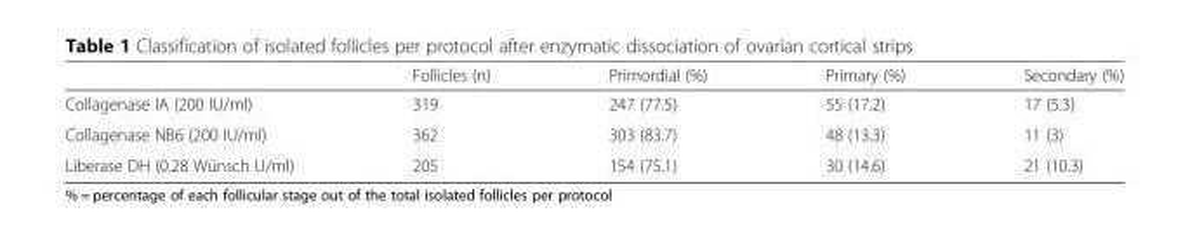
<table><thead><tr><td></td><td>Follicles (n)</td><td>Primordial (%)</td><td>Primary (%)</td><td>Secondary (%)</td></tr></thead><tbody><tr><td>Collagenase IA (200 IU/ml)</td><td>319</td><td>247 (77.5)</td><td>55 (17.2)</td><td>17 (5.3)</td></tr><tr><td>Collagenase NB6 (200 IU/ml)</td><td>362</td><td>303 (83.7)</td><td>48 (13.3)</td><td>11 (3)</td></tr><tr><td>Liberase DH (0.28 Wünsch U/ml)</td><td>205</td><td>154 (75.1)</td><td>30 (14.6)</td><td>21 (10.3)</td></tr></tbody></table>